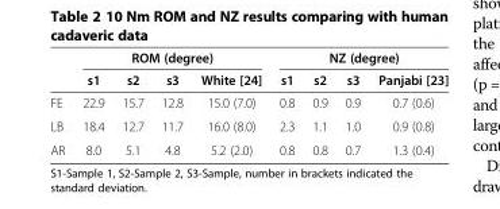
<table><thead><tr><td rowspan="2"></td><td colspan="4">ROM (degree)</td><td colspan="4">NZ (degree)</td></tr><tr><td>s1</td><td>s2</td><td>s3</td><td>White [24]</td><td>s1</td><td>s2</td><td>s3</td><td>Panjabi [23]</td></tr></thead><tbody><tr><td>FE</td><td>22.9</td><td>15.7</td><td>12.8</td><td>15.0 (7.0)</td><td>0.8</td><td>0.9</td><td>0.9</td><td>0.7 (0.6)</td></tr><tr><td>LB</td><td>18.4</td><td>12.7</td><td>11.7</td><td>16.0 (8.0)</td><td>2.3</td><td>1.1</td><td>1.0</td><td>0.9 (0.8)</td></tr><tr><td>AR</td><td>8.0</td><td>5.1</td><td>4.8</td><td>5.2 (2.0)</td><td>0.8</td><td>0.8</td><td>0.7</td><td>1.3 (0.4)</td></tr></tbody></table>